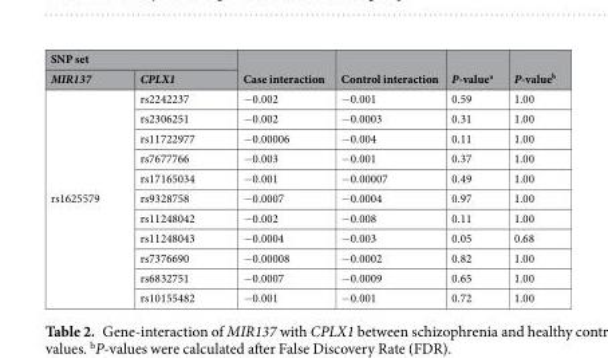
<table><thead><tr><td colspan="2">SNP set</td><td rowspan="2">Case interaction</td><td rowspan="2">Control interaction</td><td rowspan="2">P-value<sup>a</sup></td><td rowspan="2">P-value<sup>b</sup></td></tr><tr><td>MIR137</td><td>CPLX1</td></tr></thead><tbody><tr><td rowspan="11">rs1625579</td><td>rs2242237</td><td>−0.002</td><td>−0.001</td><td>0.59</td><td>1.00</td></tr><tr><td>rs2306251</td><td>−0.002</td><td>−0.0003</td><td>0.31</td><td>1.00</td></tr><tr><td>rs11722977</td><td>−0.00006</td><td>−0.004</td><td>0.11</td><td>1.00</td></tr><tr><td>rs7677766</td><td>−0.003</td><td>−0.001</td><td>0.37</td><td>1.00</td></tr><tr><td>rs17165034</td><td>−0.001</td><td>−0.00007</td><td>0.49</td><td>1.00</td></tr><tr><td>rs9328758</td><td>−0.0007</td><td>−0.0004</td><td>0.97</td><td>1.00</td></tr><tr><td>rs11248042</td><td>−0.002</td><td>−0.008</td><td>0.11</td><td>1.00</td></tr><tr><td>rs11248043</td><td>−0.0004</td><td>−0.003</td><td>0.05</td><td>0.68</td></tr><tr><td>rs7376690</td><td>−0.00008</td><td>−0.0002</td><td>0.82</td><td>1.00</td></tr><tr><td>rs6832751</td><td>−0.0007</td><td>−0.0009</td><td>0.65</td><td>1.00</td></tr><tr><td>rs10155482</td><td>−0.001</td><td>−0.001</td><td>0.72</td><td>1.00</td></tr></tbody></table>